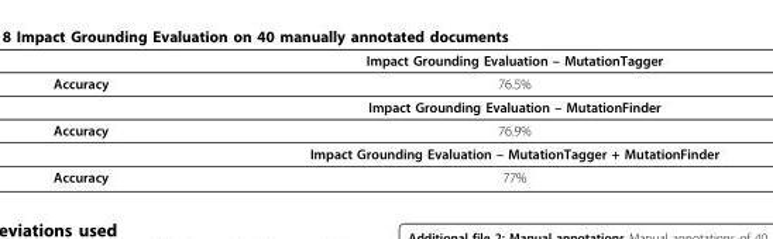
<table><thead><tr><td></td><td>Impact Grounding Evaluation – MutationTagger</td></tr></thead><tbody><tr><td rowspan="2">Accuracy</td><td>76.5%</td></tr><tr><td>Impact Grounding Evaluation – MutationFinder</td></tr><tr><td rowspan="2">Accuracy</td><td>76.9%</td></tr><tr><td>Impact Grounding Evaluation – MutationTagger + MutationFinder</td></tr><tr><td>Accuracy</td><td>77%</td></tr></tbody></table>